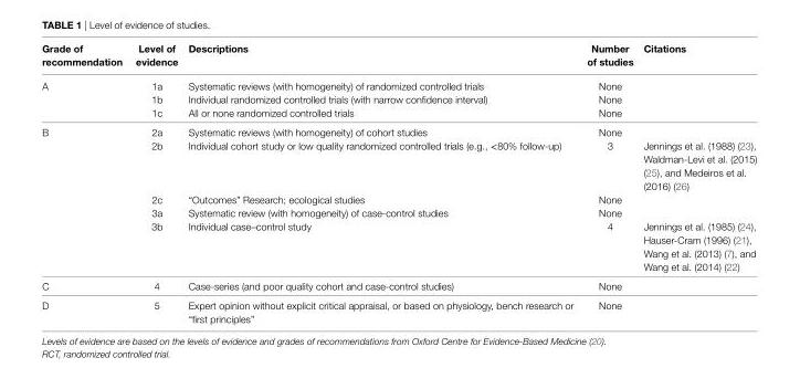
<table><thead><tr><td>grade of recommendation</td><td>Level of evidence</td><td>Descriptions</td><td>Number of studies</td><td>citations</td></tr></thead><tbody><tr><td rowspan="3">A</td><td>1a</td><td>Systematic reviews (with homogeneity) of randomized controlled trials</td><td>None</td><td></td></tr><tr><td>1b</td><td>Individual randomized controlled trials (with narrow confidence interval)</td><td>None</td><td></td></tr><tr><td>1c</td><td>All or none randomized controlled trials</td><td>None</td><td></td></tr><tr><td rowspan="5">B</td><td>2a</td><td>Systematic reviews (with homogeneity) of cohort studies</td><td>None</td><td></td></tr><tr><td>2b</td><td>Individual cohort study or low quality randomized controlled trials (e.g., &lt;80% follow-up)</td><td>3</td><td>Jennings et al. (1988) (23), Waldman-Levi et al. (2015) (25), and Medeiros et al. (2016) (26)</td></tr><tr><td>2c</td><td>“Outcomes” Research; ecological studies</td><td>None</td><td></td></tr><tr><td>3a</td><td>Systematic review (with homogeneity) of case-control studies</td><td>None</td><td></td></tr><tr><td>3b</td><td>Individual case–control study</td><td>4</td><td>Jennings et al. (1985) (24), Hauser-Cram (1996) (21), Wang et al. (2013) (7), and Wang et al. (2014) (22)</td></tr><tr><td>C</td><td>4</td><td>Case-series (and poor quality cohort and case-control studies)</td><td>None</td><td></td></tr><tr><td>D</td><td>5</td><td>Expert opinion without explicit critical appraisal, or based on physiology, bench research or “first principles”</td><td>None</td><td></td></tr></tbody></table>